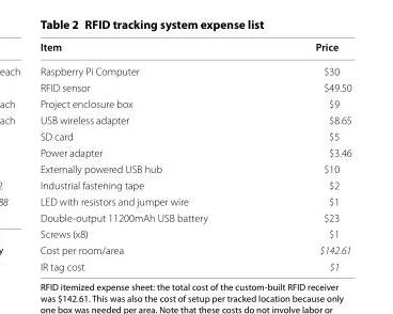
<table><thead><tr><td>Item</td><td>Price</td></tr></thead><tbody><tr><td>Raspberry Pi Computer</td><td>$30</td></tr><tr><td>RFID sensor</td><td>$49.50</td></tr><tr><td>Project enclosure box</td><td>$9</td></tr><tr><td>USB wireless adapter</td><td>$8.65</td></tr><tr><td>SD card</td><td>$5</td></tr><tr><td>Power adapter</td><td>$3.46</td></tr><tr><td>Externally powered USB hub</td><td>$10</td></tr><tr><td>Industrial fastening tape</td><td>$2</td></tr><tr><td>LED with resistors and jumper wire</td><td>$1</td></tr><tr><td>Double-output 11200mAh USB battery</td><td>$23</td></tr><tr><td>Screws (x8)</td><td>$1</td></tr><tr><td>Cost per room/area</td><td>$142.61</td></tr><tr><td>IR tag cost</td><td>$1</td></tr></tbody></table>